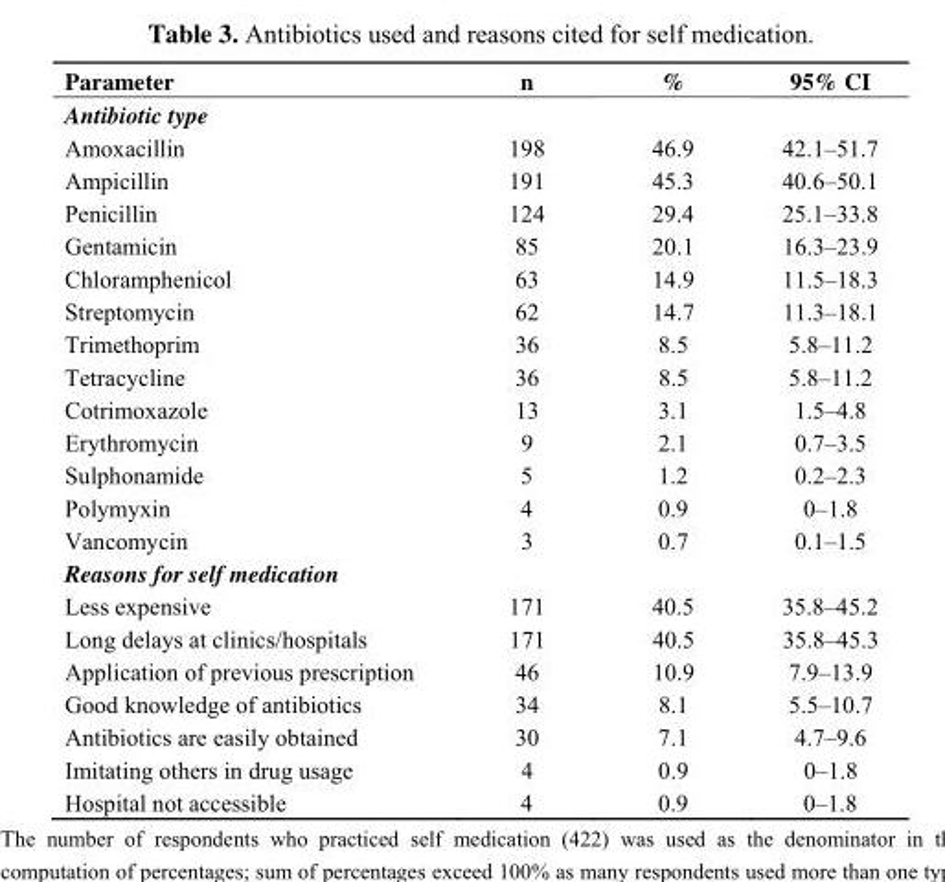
<table><thead><tr><td>Parameter</td><td>n</td><td>%</td><td>95% CI</td></tr></thead><tbody><tr><td colspan="4">Antibiotic type</td></tr><tr><td>Amoxacillin</td><td>198</td><td>46.9</td><td>42.1–51.7</td></tr><tr><td>Ampicillin</td><td>191</td><td>45.3</td><td>40.6–50.1</td></tr><tr><td>Penicillin</td><td>124</td><td>29.4</td><td>25.1–33.8</td></tr><tr><td>Gentamicin</td><td>85</td><td>20.1</td><td>16.3–23.9</td></tr><tr><td>Chloramphenicol</td><td>63</td><td>14.9</td><td>11.5–18.3</td></tr><tr><td>Streptomycin</td><td>62</td><td>14.7</td><td>11.3–18.1</td></tr><tr><td>Trimethoprim</td><td>36</td><td>8.5</td><td>5.8–11.2</td></tr><tr><td>Tetracycline</td><td>36</td><td>8.5</td><td>5.8–11.2</td></tr><tr><td>Cotrimoxazole</td><td>13</td><td>3.1</td><td>1.5–4.8</td></tr><tr><td>Erythromycin</td><td>9</td><td>2.1</td><td>0.7–3.5</td></tr><tr><td>Sulphonamide</td><td>5</td><td>1.2</td><td>0.2–2.3</td></tr><tr><td>Polymyxin</td><td>4</td><td>0.9</td><td>0–1.8</td></tr><tr><td>Vancomycin</td><td>3</td><td>0.7</td><td>0.1–1.5</td></tr><tr><td colspan="4">Reasons for self medication</td></tr><tr><td>Less expensive</td><td>171</td><td>40.5</td><td>35.8–45.2</td></tr><tr><td>Long delays at clinics/hospitals</td><td>171</td><td>40.5</td><td>35.8–45.3</td></tr><tr><td>Application of previous prescription</td><td>46</td><td>10.9</td><td>7.9–13.9</td></tr><tr><td>Good knowledge of antibiotics</td><td>34</td><td>8.1</td><td>5.5–10.7</td></tr><tr><td>Antibiotics are easily obtained</td><td>30</td><td>7.1</td><td>4.7–9.6</td></tr><tr><td>Imitating others in drug usage</td><td>4</td><td>0.9</td><td>0–1.8</td></tr><tr><td>Hospital not accessible</td><td>4</td><td>0.9</td><td>0–1.8</td></tr></tbody></table>